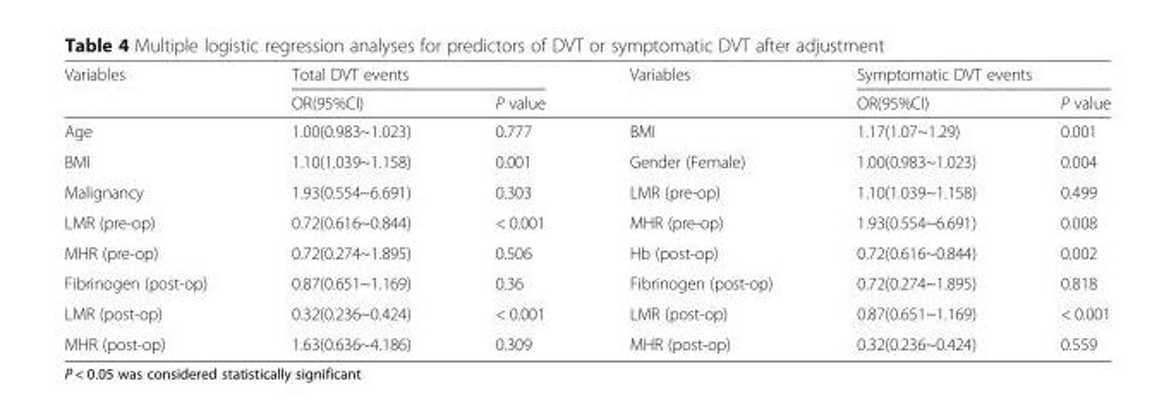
<table><thead><tr><td rowspan="2">Variables</td><td colspan="2">Total DVT events</td><td rowspan="2">Variables</td><td colspan="2">Symptomatic DVT events</td></tr><tr><td>OR(95%CI)</td><td>P value</td><td>OR(95%CI)</td><td>P value</td></tr></thead><tbody><tr><td>Age</td><td>1.00(0.983~1.023)</td><td>0.777</td><td>BMI</td><td>1.17(1.07~1.29)</td><td>0.001</td></tr><tr><td>BMI</td><td>1.10(1.039~1.158)</td><td>0.001</td><td>Gender (Female)</td><td>1.00(0.983~1.023)</td><td>0.004</td></tr><tr><td>Malignancy</td><td>1.93(0.554~6.691)</td><td>0.303</td><td>LMR (pre-op)</td><td>1.10(1.039~1.158)</td><td>0.499</td></tr><tr><td>LMR (pre-op)</td><td>0.72(0.616~0.844)</td><td>&lt; 0.001</td><td>MHR (pre-op)</td><td>1.93(0.554~6.691)</td><td>0.008</td></tr><tr><td>MHR (pre-op)</td><td>0.72(0.274~1.895)</td><td>0.506</td><td>Hb (post-op)</td><td>0.72(0.616~0.844)</td><td>0.002</td></tr><tr><td>Fibrinogen (post-op)</td><td>0.87(0.651~1.169)</td><td>0.36</td><td>Fibrinogen (post-op)</td><td>0.72(0.274~1.895)</td><td>0.818</td></tr><tr><td>LMR (post-op)</td><td>0.32(0.236~0.424)</td><td>&lt; 0.001</td><td>LMR (post-op)</td><td>0.87(0.651~1.169)</td><td>&lt; 0.001</td></tr><tr><td>MHR (post-op)</td><td>1.63(0.636~4.186)</td><td>0.309</td><td>MHR (post-op)</td><td>0.32(0.236~0.424)</td><td>0.559</td></tr></tbody></table>